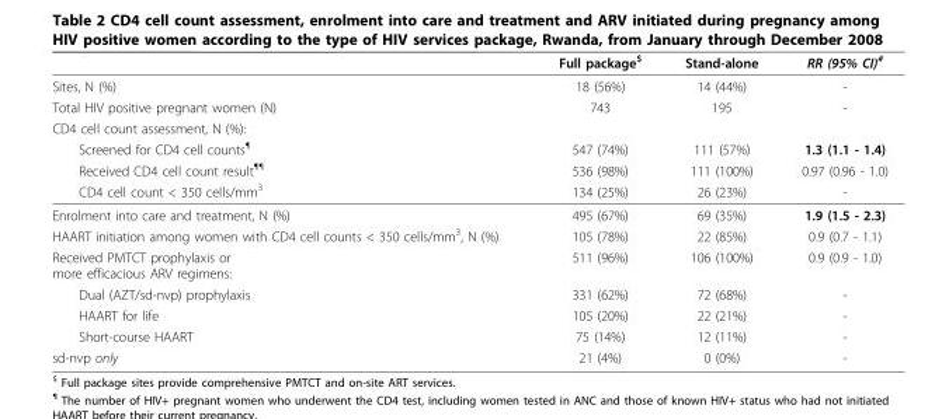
<table><thead><tr><td></td><td>Full package<sup>$</sup></td><td>Stand-alone</td><td>RR (95% CI)<sup>#</sup></td></tr></thead><tbody><tr><td>Sites, N (%)</td><td>18 (56%)</td><td>14 (44%)</td><td>-</td></tr><tr><td>Total HIV positive pregnant women (N)</td><td>743</td><td>195</td><td>-</td></tr><tr><td colspan="4">CD4 cell count assessment, N (%):</td></tr><tr><td>Screened for CD4 cell counts<sup>¶</sup></td><td>547 (74%)</td><td>111 (57%)</td><td>1.3 (1.1 - 1.4)</td></tr><tr><td>Received CD4 cell count result<sup>¶¶</sup></td><td>536 (98%)</td><td>111 (100%)</td><td>0.97 (0.96 - 1.0)</td></tr><tr><td>CD4 cell count &lt; 350 cells/mm<sup>3</sup></td><td>134 (25%)</td><td>26 (23%)</td><td>-</td></tr><tr><td>Enrolment into care and treatment, N (%)</td><td>495 (67%)</td><td>69 (35%)</td><td>1.9 (1.5 - 2.3)</td></tr><tr><td>HAART initiation among women with CD4 cell counts &lt; 350 cells/mm<sup>3</sup>, N (%)</td><td>105 (78%)</td><td>22 (85%)</td><td>0.9 (0.7 - 1.1)</td></tr><tr><td>Received PMTCT prophylaxis or more efficacious ARV regimens:</td><td>511 (96%)</td><td>106 (100%)</td><td>0.9 (0.9 - 1.0)</td></tr><tr><td>Dual (AZT/sd-nvp) prophylaxis</td><td>331 (62%)</td><td>72 (68%)</td><td>-</td></tr><tr><td>HAART for life</td><td>105 (20%)</td><td>22 (21%)</td><td>-</td></tr><tr><td>Short-course HAART</td><td>75 (14%)</td><td>12 (11%)</td><td>-</td></tr><tr><td>sd-nvp only</td><td>21 (4%)</td><td>0 (0%)</td><td>-</td></tr></tbody></table>